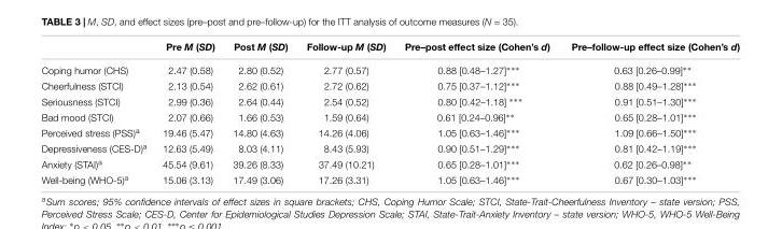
<table><thead><tr><td></td><td>Pre M (SD)</td><td>Post M (SD)</td><td>Follow-up M (SD)</td><td>Pre–post effect size (Cohen’s d)</td><td>Pre–follow-up effect size (Cohen’s d)</td></tr></thead><tbody><tr><td>Coping humor (CHS)</td><td>2.47 (0.58)</td><td>2.80 (0.52)</td><td>2.77 (0.57)</td><td>0.88 [0.48–1.27]∗∗∗</td><td>0.63 [0.26–0.99]∗∗</td></tr><tr><td>Cheerfulness (STCI)</td><td>2.13 (0.54)</td><td>2.62 (0.61)</td><td>2.72 (0.62)</td><td>0.75 [0.37–1.12]∗∗∗</td><td>0.88 [0.49–1.28]∗∗∗</td></tr><tr><td>Seriousness (STCI)</td><td>2.99 (0.36)</td><td>2.64 (0.44)</td><td>2.54 (0.52)</td><td>0.80 [0.42–1.18] ∗∗∗</td><td>0.91 [0.51–1.30]∗∗∗</td></tr><tr><td>Bad mood (STCI)</td><td>2.07 (0.66)</td><td>1.66 (0.53)</td><td>1.59 (0.64)</td><td>0.61 [0.24–0.96]∗∗</td><td>0.65 [0.28–1.01]∗∗∗</td></tr><tr><td>Perceived stress (PSS)<sup>a</sup></td><td>19.46 (5.47)</td><td>14.80 (4.63)</td><td>14.26 (4.06)</td><td>1.05 [0.63–1.46]∗∗∗</td><td>1.09 [0.66–1.50]∗∗∗</td></tr><tr><td>Depressiveness (CES-D)<sup>a</sup></td><td>12.63 (5.49)</td><td>8.03 (4.11)</td><td>8.43 (5.93)</td><td>0.90 [0.51–1.29]∗∗∗</td><td>0.81 [0.42–1.19]∗∗∗</td></tr><tr><td>Anxiety (STAI)<sup>a</sup></td><td>45.54 (9.61)</td><td>39.26 (8.33)</td><td>37.49 (10.21)</td><td>0.65 [0.28–1.01]∗∗∗</td><td>0.62 [0.26–0.98]∗∗</td></tr><tr><td>Well-being (WHO-5)<sup>a</sup></td><td>15.06 (3.13)</td><td>17.49 (3.06)</td><td>17.26 (3.31)</td><td>1.05 [0.63–1.46]∗∗∗</td><td>0.67 [0.30–1.03]∗∗∗</td></tr></tbody></table>